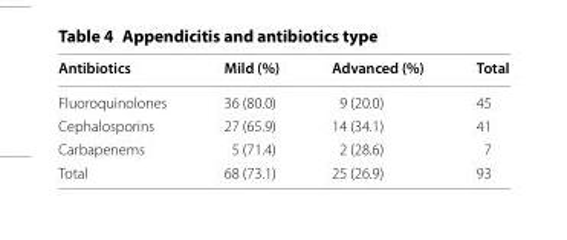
<table><thead><tr><td>Antibiotics</td><td>Mild (%)</td><td>Advanced (%)</td><td>Total</td></tr></thead><tbody><tr><td>Fluoroquinolones</td><td>36 (80.0)</td><td>9 (20.0)</td><td>45</td></tr><tr><td>Cephalosporins</td><td>27 (65.9)</td><td>14 (34.1)</td><td>41</td></tr><tr><td>Carbapenems</td><td>5 (71.4)</td><td>2 (28.6)</td><td>7</td></tr><tr><td>Total</td><td>68 (73.1)</td><td>25 (26.9)</td><td>93</td></tr></tbody></table>